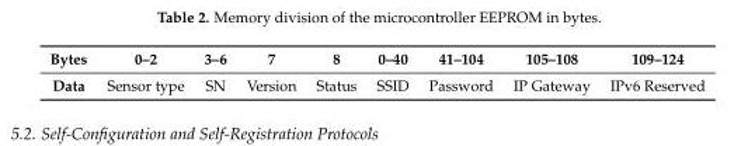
<table><thead><tr><td>Bytes</td><td>0–2</td><td>3–6</td><td>7</td><td>8</td><td>0–40</td><td>41–104</td><td>105–108</td><td>109–124</td></tr></thead><tbody><tr><td>Data</td><td>Sensor type</td><td>SN</td><td>Version</td><td>Status</td><td>SSID</td><td>Password</td><td>IP Gateway</td><td>IPv6 Reserved</td></tr></tbody></table>